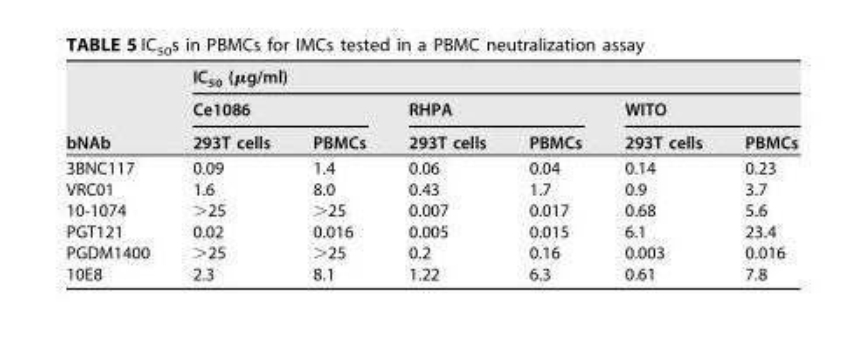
<table><thead><tr><td rowspan="3">bNAb</td><td colspan="6">IC<sub>50</sub> (μg/ml)</td></tr><tr><td colspan="2">Ce1086</td><td colspan="2">RHPA</td><td colspan="2">WITO</td></tr><tr><td>293T cells</td><td>PBMCs</td><td>293T cells</td><td>PBMCs</td><td>293T cells</td><td>PBMCs</td></tr></thead><tbody><tr><td>3BNC117</td><td>0.09</td><td>1.4</td><td>0.06</td><td>0.04</td><td>0.14</td><td>0.23</td></tr><tr><td>VRC01</td><td>1.6</td><td>8.0</td><td>0.43</td><td>1.7</td><td>0.9</td><td>3.7</td></tr><tr><td>10-1074</td><td>&gt;25</td><td>&gt;25</td><td>0.007</td><td>0.017</td><td>0.68</td><td>5.6</td></tr><tr><td>PGT121</td><td>0.02</td><td>0.016</td><td>0.005</td><td>0.015</td><td>6.1</td><td>23.4</td></tr><tr><td>PGDM1400</td><td>&gt;25</td><td>&gt;25</td><td>0.2</td><td>0.16</td><td>0.003</td><td>0.016</td></tr><tr><td>10E8</td><td>2.3</td><td>8.1</td><td>1.22</td><td>6.3</td><td>0.61</td><td>7.8</td></tr></tbody></table>